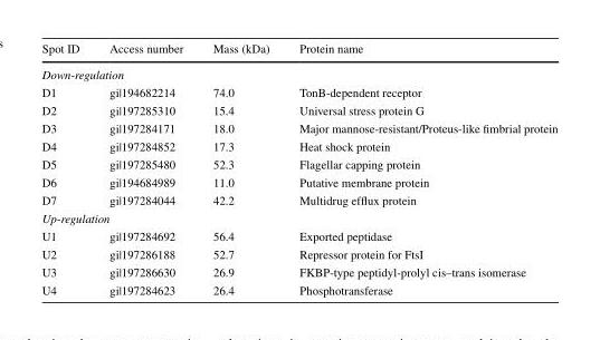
<table><thead><tr><td>Spot ID</td><td>Access number</td><td>Mass (kDa)</td><td>Protein name</td></tr></thead><tbody><tr><td colspan="4">Down-regulation</td></tr><tr><td>D1</td><td>gi|194682214</td><td>74.0</td><td>TonB-dependent receptor</td></tr><tr><td>D2</td><td>gi|197285310</td><td>15.4</td><td>Universal stress protein G</td></tr><tr><td>D3</td><td>gi|197284171</td><td>18.0</td><td>Major mannose-resistant/Proteus-like fimbrial protein</td></tr><tr><td>D4</td><td>gi|197284852</td><td>17.3</td><td>Heat shock protein</td></tr><tr><td>D5</td><td>gi|197285480</td><td>52.3</td><td>Flagellar capping protein</td></tr><tr><td>D6</td><td>gi|194684989</td><td>11.0</td><td>Putative membrane protein</td></tr><tr><td>D7</td><td>gi|197284044</td><td>42.2</td><td>Multidrug efflux protein</td></tr><tr><td colspan="4">Up-regulation</td></tr><tr><td>U1</td><td>gi|197284692</td><td>56.4</td><td>Exported peptidase</td></tr><tr><td>U2</td><td>gi|197286188</td><td>52.7</td><td>Repressor protein for FtsI</td></tr><tr><td>U3</td><td>gi|197286630</td><td>26.9</td><td>FKBP-type peptidyl-prolyl cis–trans isomerase</td></tr><tr><td>U4</td><td>gi|197284623</td><td>26.4</td><td>Phosphotransferase</td></tr></tbody></table>